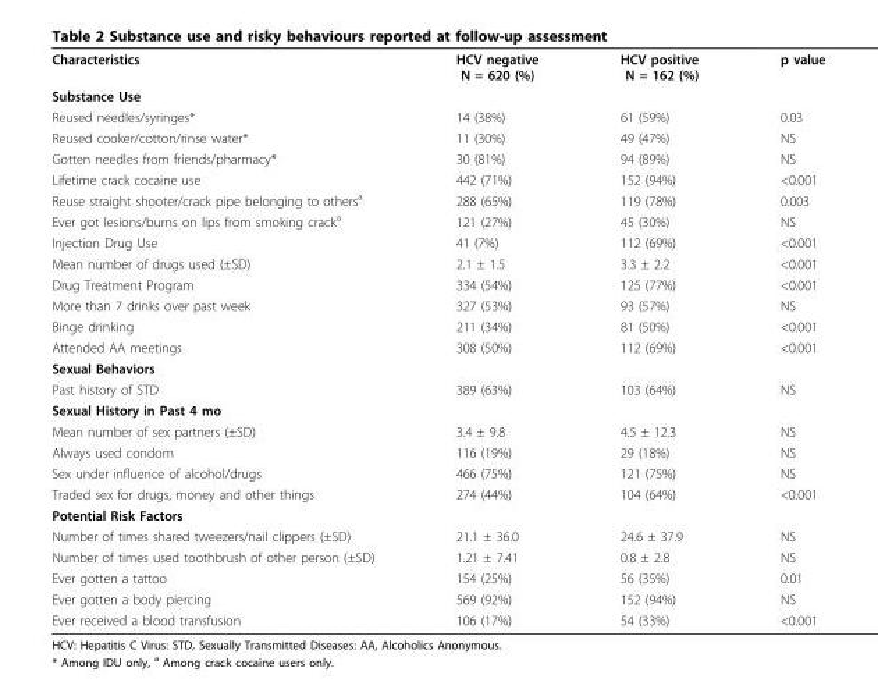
<table><tbody><tr><td>Characteristics</td><td>HCV negative N = 620 (%)</td><td>HCV positive N = 162 (%)</td><td>p value</td></tr><tr><td colspan="4">Substance Use</td></tr><tr><td>Reused needles/syringes*</td><td>14 (38%)</td><td>61 (59%)</td><td>0.03</td></tr><tr><td>Reused cooker/cotton/rinse water*</td><td>11 (30%)</td><td>49 (47%)</td><td>NS</td></tr><tr><td>Gotten needles from friends/pharmacy*</td><td>30 (81%)</td><td>94 (89%)</td><td>NS</td></tr><tr><td>Lifetime crack cocaine use</td><td>442 (71%)</td><td>152 (94%)</td><td>&lt;0.001</td></tr><tr><td>Reuse straight shooter/crack pipe belonging to others<sup>a</sup></td><td>288 (65%)</td><td>119 (78%)</td><td>0.003</td></tr><tr><td>Ever got lesions/burns on lips from smoking crack<sup>a</sup></td><td>121 (27%)</td><td>45 (30%)</td><td>NS</td></tr><tr><td>Injection Drug Use</td><td>41 (7%)</td><td>112 (69%)</td><td>&lt;0.001</td></tr><tr><td>Mean number of drugs used (±SD)</td><td>2.1 ± 1.5</td><td>3.3 ± 2.2</td><td>&lt;0.001</td></tr><tr><td>Drug Treatment Program</td><td>334 (54%)</td><td>125 (77%)</td><td>&lt;0.001</td></tr><tr><td>More than 7 drinks over past week</td><td>327 (53%)</td><td>93 (57%)</td><td>NS</td></tr><tr><td>Binge drinking</td><td>211 (34%)</td><td>81 (50%)</td><td>&lt;0.001</td></tr><tr><td>Attended AA meetings</td><td>308 (50%)</td><td>112 (69%)</td><td>&lt;0.001</td></tr><tr><td colspan="4">Sexual Behaviors</td></tr><tr><td>Past history of STD</td><td>389 (63%)</td><td>103 (64%)</td><td>NS</td></tr><tr><td colspan="4">Sexual History in Past 4 mo</td></tr><tr><td>Mean number of sex partners (±SD)</td><td>3.4 ± 9.8</td><td>4.5 ± 12.3</td><td>NS</td></tr><tr><td>Always used condom</td><td>116 (19%)</td><td>29 (18%)</td><td>NS</td></tr><tr><td>Sex under influence of alcohol/drugs</td><td>466 (75%)</td><td>121 (75%)</td><td>NS</td></tr><tr><td>Traded sex for drugs, money and other things</td><td>274 (44%)</td><td>104 (64%)</td><td>&lt;0.001</td></tr><tr><td colspan="4">Potential Risk Factors</td></tr><tr><td>Number of times shared tweezers/nail clippers (±SD)</td><td>21.1 ± 36.0</td><td>24.6 ± 37.9</td><td>NS</td></tr><tr><td>Number of times used toothbrush of other person (±SD)</td><td>1.21 ± 7.41</td><td>0.8 ± 2.8</td><td>NS</td></tr><tr><td>Ever gotten a tattoo</td><td>154 (25%)</td><td>56 (35%)</td><td>0.01</td></tr><tr><td>Ever gotten a body piercing</td><td>569 (92%)</td><td>152 (94%)</td><td>NS</td></tr><tr><td>Ever received a blood transfusion</td><td>106 (17%)</td><td>54 (33%)</td><td>&lt;0.001</td></tr></tbody></table>